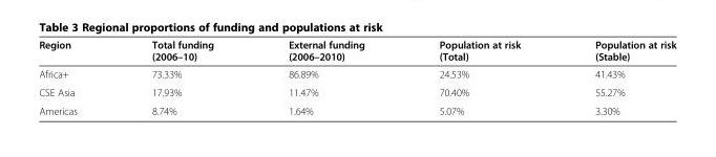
<table><thead><tr><td>Region</td><td>Total funding (2006–10)</td><td>External funding (2006–2010)</td><td>Population at risk (Total)</td><td>Population at risk (Stable)</td></tr></thead><tbody><tr><td>Africa+</td><td>73.33%</td><td>86.89%</td><td>24.53%</td><td>41.43%</td></tr><tr><td>CSE Asia</td><td>17.93%</td><td>11.47%</td><td>70.40%</td><td>55.27%</td></tr><tr><td>Americas</td><td>8.74%</td><td>1.64%</td><td>5.07%</td><td>3.30%</td></tr></tbody></table>